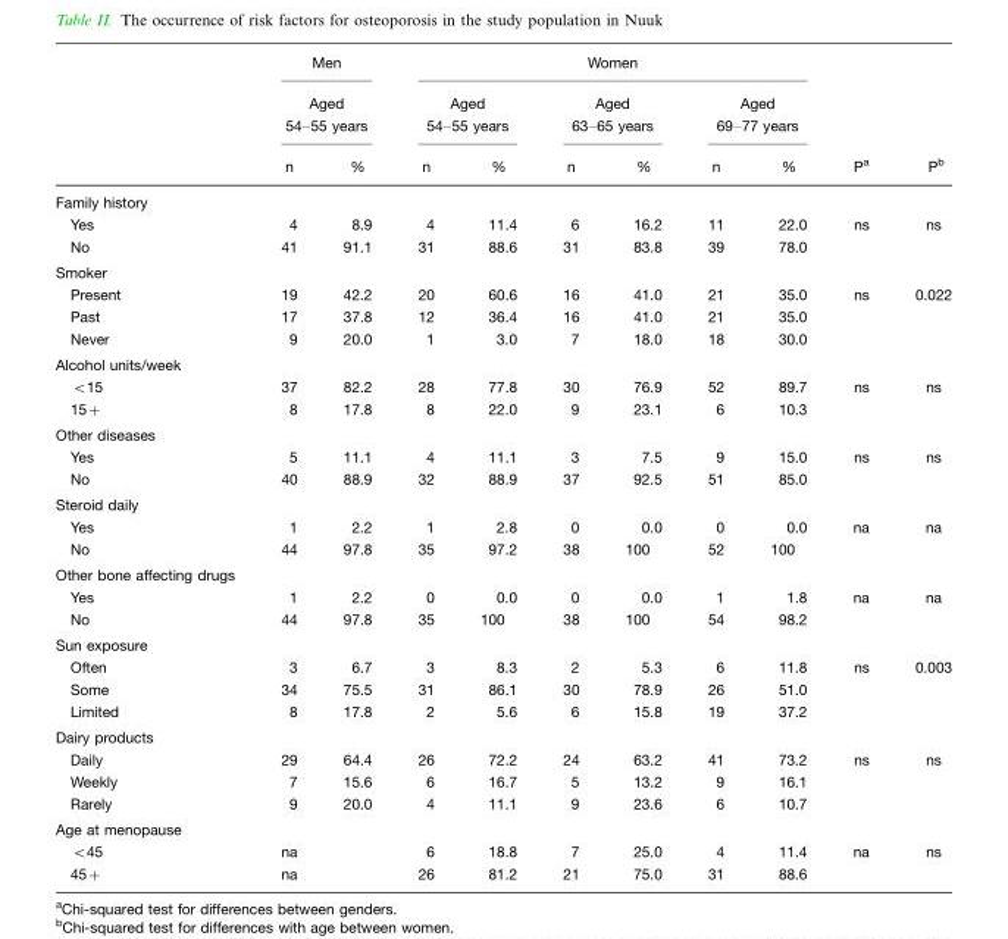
<table><thead><tr><td rowspan="3"></td><td rowspan="2" colspan="2">Men Aged 54–55 years</td><td colspan="6">Women</td><td rowspan="3">P<sup>a</sup></td><td rowspan="3">P<sup>b</sup></td></tr><tr><td colspan="2">Aged 54–55 years</td><td colspan="2">Aged 63–65 years</td><td colspan="2">Aged 69–77 years</td></tr><tr><td>n</td><td>%</td><td>n</td><td>%</td><td>n</td><td>%</td><td>n</td><td>%</td></tr></thead><tbody><tr><td colspan="11">Family history</td></tr><tr><td>Yes</td><td>4</td><td>8.9</td><td>4</td><td>11.4</td><td>6</td><td>16.2</td><td>11</td><td>22.0</td><td>ns</td><td>ns</td></tr><tr><td>No</td><td>41</td><td>91.1</td><td>31</td><td>88.6</td><td>31</td><td>83.8</td><td>39</td><td>78.0</td><td></td><td></td></tr><tr><td colspan="11">Smoker</td></tr><tr><td>Present</td><td>19</td><td>42.2</td><td>20</td><td>60.6</td><td>16</td><td>41.0</td><td>21</td><td>35.0</td><td>ns</td><td>0.022</td></tr><tr><td>Past</td><td>17</td><td>37.8</td><td>12</td><td>36.4</td><td>16</td><td>41.0</td><td>21</td><td>35.0</td><td></td><td></td></tr><tr><td>Never</td><td>9</td><td>20.0</td><td>1</td><td>3.0</td><td>7</td><td>18.0</td><td>18</td><td>30.0</td><td></td><td></td></tr><tr><td colspan="11">Alcohol units/week</td></tr><tr><td>&lt;15</td><td>37</td><td>82.2</td><td>28</td><td>77.8</td><td>30</td><td>76.9</td><td>52</td><td>89.7</td><td>ns</td><td>ns</td></tr><tr><td>15+</td><td>8</td><td>17.8</td><td>8</td><td>22.0</td><td>9</td><td>23.1</td><td>6</td><td>10.3</td><td></td><td></td></tr><tr><td colspan="11">Other diseases</td></tr><tr><td>Yes</td><td>5</td><td>11.1</td><td>4</td><td>11.1</td><td>3</td><td>7.5</td><td>9</td><td>15.0</td><td>ns</td><td>ns</td></tr><tr><td>No</td><td>40</td><td>88.9</td><td>32</td><td>88.9</td><td>37</td><td>92.5</td><td>51</td><td>85.0</td><td></td><td></td></tr><tr><td colspan="11">Steroid daily</td></tr><tr><td>Yes</td><td>1</td><td>2.2</td><td>1</td><td>2.8</td><td>0</td><td>0.0</td><td>0</td><td>0.0</td><td>na</td><td>na</td></tr><tr><td>No</td><td>44</td><td>97.8</td><td>35</td><td>97.2</td><td>38</td><td>100</td><td>52</td><td>100</td><td></td><td></td></tr><tr><td colspan="11">Other bone affecting drugs</td></tr><tr><td>Yes</td><td>1</td><td>2.2</td><td>0</td><td>0.0</td><td>0</td><td>0.0</td><td>1</td><td>1.8</td><td>na</td><td>na</td></tr><tr><td>No</td><td>44</td><td>97.8</td><td>35</td><td>100</td><td>38</td><td>100</td><td>54</td><td>98.2</td><td></td><td></td></tr><tr><td colspan="11">Sun exposure</td></tr><tr><td>Often</td><td>3</td><td>6.7</td><td>3</td><td>8.3</td><td>2</td><td>5.3</td><td>6</td><td>11.8</td><td>ns</td><td>0.003</td></tr><tr><td>Some</td><td>34</td><td>75.5</td><td>31</td><td>86.1</td><td>30</td><td>78.9</td><td>26</td><td>51.0</td><td></td><td></td></tr><tr><td>Limited</td><td>8</td><td>17.8</td><td>2</td><td>5.6</td><td>6</td><td>15.8</td><td>19</td><td>37.2</td><td></td><td></td></tr><tr><td colspan="11">Dairy products</td></tr><tr><td>Daily</td><td>29</td><td>64.4</td><td>26</td><td>72.2</td><td>24</td><td>63.2</td><td>41</td><td>73.2</td><td>ns</td><td>ns</td></tr><tr><td>Weekly</td><td>7</td><td>15.6</td><td>6</td><td>16.7</td><td>5</td><td>13.2</td><td>9</td><td>16.1</td><td></td><td></td></tr><tr><td>Rarely</td><td>9</td><td>20.0</td><td>4</td><td>11.1</td><td>9</td><td>23.6</td><td>6</td><td>10.7</td><td></td><td></td></tr><tr><td colspan="11">Age at menopause</td></tr><tr><td>&lt;45</td><td>na</td><td></td><td>6</td><td>18.8</td><td>7</td><td>25.0</td><td>4</td><td>11.4</td><td>na</td><td>ns</td></tr><tr><td>45+</td><td>na</td><td></td><td>26</td><td>81.2</td><td>21</td><td>75.0</td><td>31</td><td>88.6</td><td></td><td></td></tr></tbody></table>